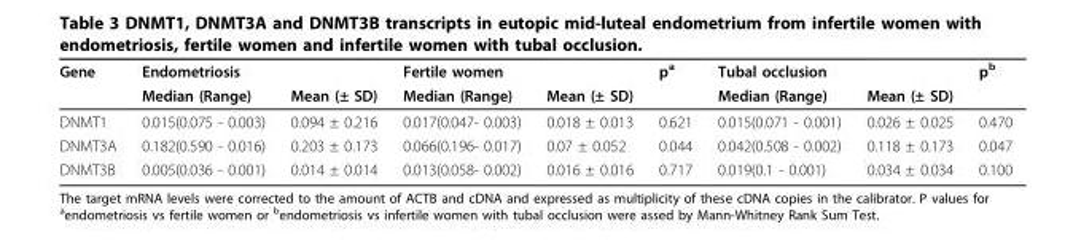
<table><thead><tr><td rowspan="2">Gene</td><td colspan="2">Endometriosis</td><td colspan="2">Fertile women</td><td rowspan="2">p<sup>a</sup></td><td colspan="2">Tubal occlusion</td><td rowspan="2">p<sup>b</sup></td></tr><tr><td>Median (Range)</td><td>Mean (± SD)</td><td>Median (Range)</td><td>Mean (± SD)</td><td>Median (Range)</td><td>Mean (± SD)</td></tr></thead><tbody><tr><td>DNMT1</td><td>0.015(0.075 - 0.003)</td><td>0.094 ± 0.216</td><td>0.017(0.047- 0.003)</td><td>0.018 ± 0.013</td><td>0.621</td><td>0.015(0.071 - 0.001)</td><td>0.026 ± 0.025</td><td>0.470</td></tr><tr><td>DNMT3A</td><td>0.182(0.590 - 0.016)</td><td>0.203 ± 0.173</td><td>0.066(0.196- 0.017)</td><td>0.07 ± 0.052</td><td>0.044</td><td>0.042(0.508 - 0.002)</td><td>0.118 ± 0.173</td><td>0.047</td></tr><tr><td>DNMT3B</td><td>0.005(0.036 - 0.001)</td><td>0.014 ± 0.014</td><td>0.013(0.058- 0.002)</td><td>0.016 ± 0.016</td><td>0.717</td><td>0.019(0.1 - 0.001)</td><td>0.034 ± 0.034</td><td>0.100</td></tr></tbody></table>